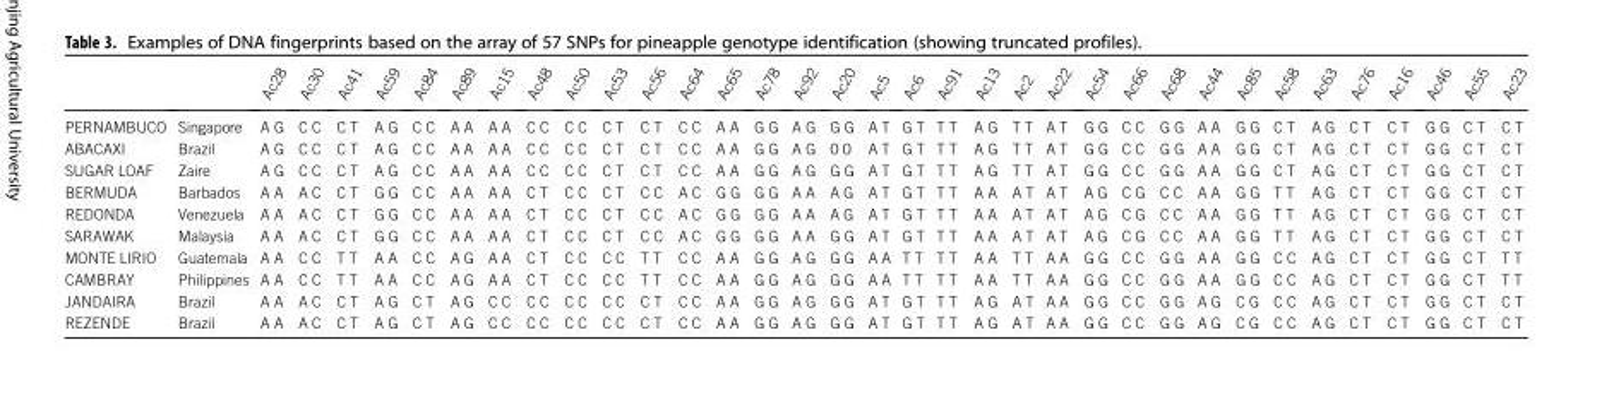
<table><thead><tr><td></td><td></td><td>Ac28</td><td>Ac30</td><td>Ac41</td><td>Ac59</td><td>Ac84</td><td>Ac89</td><td>Ac15</td><td>Ac48</td><td>Ac50</td><td>Ac53</td><td>Ac56</td><td>Ac64</td><td>Ac65</td><td>Ac78</td><td>Ac92</td><td>Ac20</td><td>Ac5</td><td>Ac6</td><td>Ac91</td><td>Ac13</td><td>Ac2</td><td>Ac22</td><td>Ac54</td><td>Ac66</td><td>Ac68</td><td>Ac44</td><td>Ac85</td><td>Ac58</td><td>Ac63</td><td>Ac76</td><td>Ac16</td><td>Ac46</td><td>Ac55</td><td>Ac23</td></tr></thead><tbody><tr><td>PERNAMBUCO</td><td>Singapore</td><td>A G</td><td>C C</td><td>C T</td><td>A G</td><td>C C</td><td>A A</td><td>A A</td><td>C C</td><td>C C</td><td>C T</td><td>C T</td><td>C C</td><td>A A</td><td>G G</td><td>A G</td><td>G G</td><td>A T</td><td>G T</td><td>T T</td><td>A G</td><td>T T</td><td>A T</td><td>G G</td><td>C C</td><td>G G</td><td>A A</td><td>G G</td><td>C T</td><td>A G</td><td>C T</td><td>C T</td><td>G G</td><td>C T</td><td>C T</td></tr><tr><td>ABACAXI</td><td>Brazil</td><td>A G</td><td>C C</td><td>C T</td><td>A G</td><td>C C</td><td>A A</td><td>A A</td><td>C C</td><td>C C</td><td>C T</td><td>C T</td><td>C C</td><td>A A</td><td>G G</td><td>A G</td><td>0 0</td><td>A T</td><td>G T</td><td>T T</td><td>A G</td><td>T T</td><td>A T</td><td>G G</td><td>C C</td><td>G G</td><td>A A</td><td>G G</td><td>C T</td><td>A G</td><td>C T</td><td>C T</td><td>G G</td><td>C T</td><td>C T</td></tr><tr><td>SUGAR LOAF</td><td>Zaire</td><td>A G</td><td>C C</td><td>C T</td><td>A G</td><td>C C</td><td>A A</td><td>A A</td><td>C C</td><td>C C</td><td>C T</td><td>C T</td><td>C C</td><td>A A</td><td>G G</td><td>A G</td><td>G G</td><td>A T</td><td>G T</td><td>T T</td><td>A G</td><td>T T</td><td>A T</td><td>G G</td><td>C C</td><td>G G</td><td>A A</td><td>G G</td><td>C T</td><td>A G</td><td>C T</td><td>C T</td><td>G G</td><td>C T</td><td>C T</td></tr><tr><td>BERMUDA</td><td>Barbados</td><td>A A</td><td>A C</td><td>C T</td><td>G G</td><td>C C</td><td>A A</td><td>A A</td><td>C T</td><td>C C</td><td>C T</td><td>C C</td><td>A C</td><td>G G</td><td>G G</td><td>A A</td><td>A G</td><td>A T</td><td>G T</td><td>T T</td><td>A A</td><td>A T</td><td>A T</td><td>A G</td><td>C G</td><td>C C</td><td>A A</td><td>G G</td><td>T T</td><td>A G</td><td>C T</td><td>C T</td><td>G G</td><td>C T</td><td>C T</td></tr><tr><td>REDONDA</td><td>Venezuela</td><td>A A</td><td>A C</td><td>C T</td><td>G G</td><td>C C</td><td>A A</td><td>A A</td><td>C T</td><td>C C</td><td>C T</td><td>C C</td><td>A C</td><td>G G</td><td>G G</td><td>A A</td><td>A G</td><td>A T</td><td>G T</td><td>T T</td><td>A A</td><td>A T</td><td>A T</td><td>A G</td><td>C G</td><td>C C</td><td>A A</td><td>G G</td><td>T T</td><td>A G</td><td>C T</td><td>C T</td><td>G G</td><td>C T</td><td>C T</td></tr><tr><td>SARAWAK</td><td>Malaysia</td><td>A A</td><td>A C</td><td>C T</td><td>G G</td><td>C C</td><td>A A</td><td>A A</td><td>C T</td><td>C C</td><td>C T</td><td>C C</td><td>A C</td><td>G G</td><td>G G</td><td>A A</td><td>G G</td><td>A T</td><td>G T</td><td>T T</td><td>A A</td><td>A T</td><td>A T</td><td>A G</td><td>C G</td><td>C C</td><td>A A</td><td>G G</td><td>T T</td><td>A G</td><td>C T</td><td>C T</td><td>G G</td><td>C T</td><td>C T</td></tr><tr><td>MONTE LIRIO</td><td>Guatemala</td><td>A A</td><td>C C</td><td>T T</td><td>A A</td><td>C C</td><td>A G</td><td>A A</td><td>C T</td><td>C C</td><td>C C</td><td>T T</td><td>C C</td><td>A A</td><td>G G</td><td>A G</td><td>G G</td><td>A A</td><td>T T</td><td>T T</td><td>A A</td><td>T T</td><td>A A</td><td>G G</td><td>C C</td><td>G G</td><td>A A</td><td>G G</td><td>C C</td><td>A G</td><td>C T</td><td>C T</td><td>G G</td><td>C T</td><td>T T</td></tr><tr><td>CAMBRAY</td><td>Philippines</td><td>A A</td><td>C C</td><td>T T</td><td>A A</td><td>C C</td><td>A G</td><td>A A</td><td>C T</td><td>C C</td><td>C C</td><td>T T</td><td>C C</td><td>A A</td><td>G G</td><td>A G</td><td>G G</td><td>A A</td><td>T T</td><td>T T</td><td>A A</td><td>T T</td><td>A A</td><td>G G</td><td>C C</td><td>G G</td><td>A A</td><td>G G</td><td>C C</td><td>A G</td><td>C T</td><td>C T</td><td>G G</td><td>C T</td><td>T T</td></tr><tr><td>JANDAIRA</td><td>Brazil</td><td>A A</td><td>A C</td><td>C T</td><td>A G</td><td>C T</td><td>A G</td><td>C C</td><td>C C</td><td>C C</td><td>C C</td><td>C T</td><td>C C</td><td>A A</td><td>G G</td><td>A G</td><td>G G</td><td>A T</td><td>G T</td><td>T T</td><td>A G</td><td>A T</td><td>A A</td><td>G G</td><td>C C</td><td>G G</td><td>A G</td><td>C G</td><td>C C</td><td>A G</td><td>C T</td><td>C T</td><td>G G</td><td>C T</td><td>C T</td></tr><tr><td>REZENDE</td><td>Brazil</td><td>A A</td><td>A C</td><td>C T</td><td>A G</td><td>C T</td><td>A G</td><td>C C</td><td>C C</td><td>C C</td><td>C C</td><td>C T</td><td>C C</td><td>A A</td><td>G G</td><td>A G</td><td>G G</td><td>A T</td><td>G T</td><td>T T</td><td>A G</td><td>A T</td><td>A A</td><td>G G</td><td>C C</td><td>G G</td><td>A G</td><td>C G</td><td>C C</td><td>A G</td><td>C T</td><td>C T</td><td>G G</td><td>C T</td><td>C T</td></tr></tbody></table>